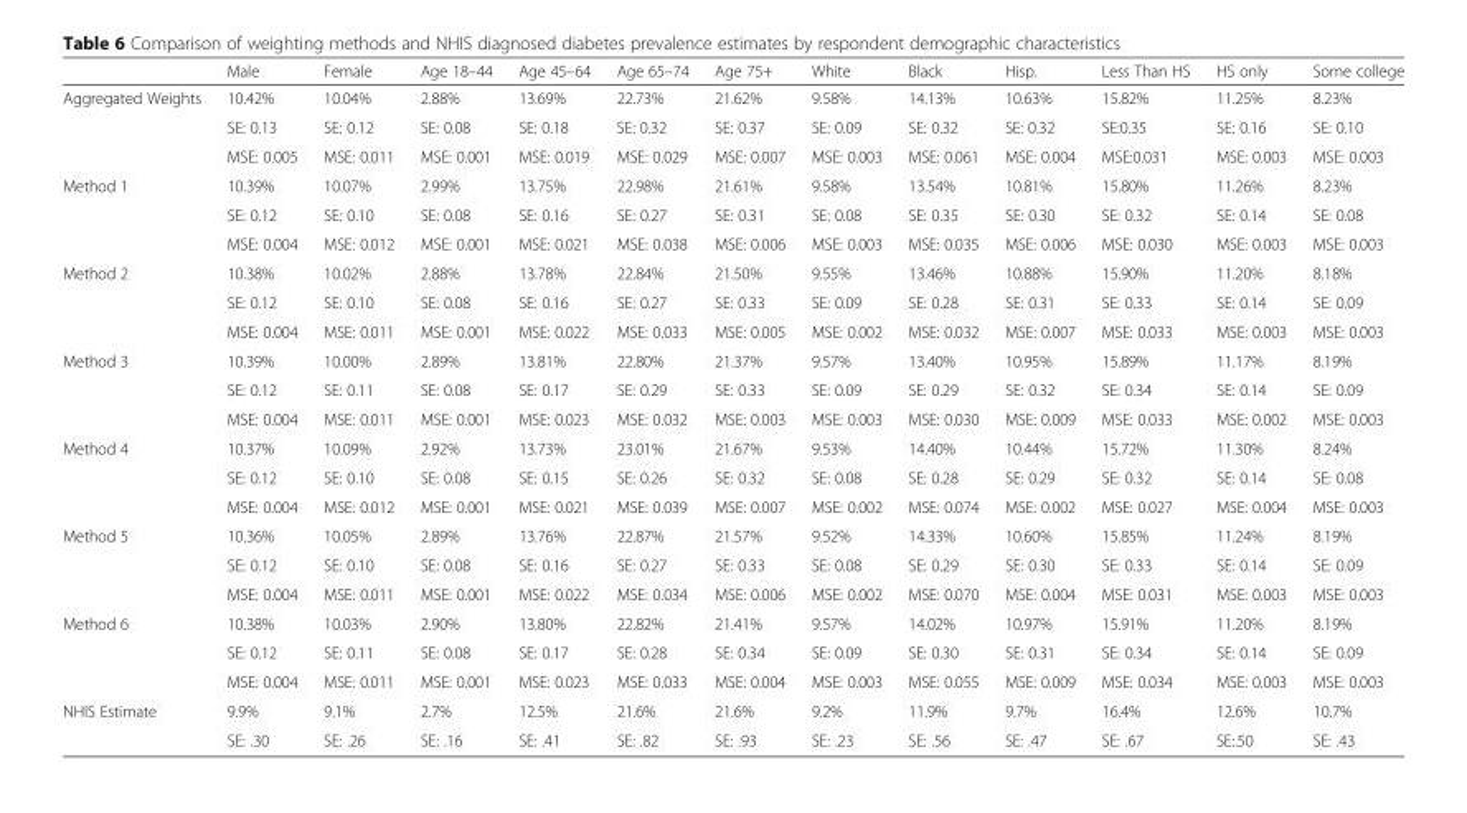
<table><thead><tr><td></td><td>Male</td><td>Female</td><td>Age 18–44</td><td>Age 45–64</td><td>Age 65–74</td><td>Age 75+</td><td>White</td><td>Black</td><td>Hisp.</td><td>Less Than HS</td><td>HS only</td><td>Some college</td></tr></thead><tbody><tr><td rowspan="3">Aggregated Weights</td><td>10.42%</td><td>10.04%</td><td>2.88%</td><td>13.69%</td><td>22.73%</td><td>21.62%</td><td>9.58%</td><td>14.13%</td><td>10.63%</td><td>15.82%</td><td>11.25%</td><td>8.23%</td></tr><tr><td>SE: 0.13</td><td>SE: 0.12</td><td>SE: 0.08</td><td>SE: 0.18</td><td>SE: 0.32</td><td>SE: 0.37</td><td>SE: 0.09</td><td>SE: 0.32</td><td>SE: 0.32</td><td>SE:0.35</td><td>SE: 0.16</td><td>SE: 0.10</td></tr><tr><td>MSE: 0.005</td><td>MSE: 0.011</td><td>MSE: 0.001</td><td>MSE: 0.019</td><td>MSE: 0.029</td><td>MSE: 0.007</td><td>MSE: 0.003</td><td>MSE: 0.061</td><td>MSE: 0.004</td><td>MSE:0.031</td><td>MSE: 0.003</td><td>MSE: 0.003</td></tr><tr><td rowspan="3">Method 1</td><td>10.39%</td><td>10.07%</td><td>2.99%</td><td>13.75%</td><td>22.98%</td><td>21.61%</td><td>9.58%</td><td>13.54%</td><td>10.81%</td><td>15.80%</td><td>11.26%</td><td>8.23%</td></tr><tr><td>SE: 0.12</td><td>SE: 0.10</td><td>SE: 0.08</td><td>SE: 0.16</td><td>SE: 0.27</td><td>SE: 0.31</td><td>SE: 0.08</td><td>SE: 0.35</td><td>SE: 0.30</td><td>SE: 0.32</td><td>SE: 0.14</td><td>SE: 0.08</td></tr><tr><td>MSE: 0.004</td><td>MSE: 0.012</td><td>MSE: 0.001</td><td>MSE: 0.021</td><td>MSE: 0.038</td><td>MSE: 0.006</td><td>MSE: 0.003</td><td>MSE: 0.035</td><td>MSE: 0.006</td><td>MSE: 0.030</td><td>MSE: 0.003</td><td>MSE: 0.003</td></tr><tr><td rowspan="3">Method 2</td><td>10.38%</td><td>10.02%</td><td>2.88%</td><td>13.78%</td><td>22.84%</td><td>21.50%</td><td>9.55%</td><td>13.46%</td><td>10.88%</td><td>15.90%</td><td>11.20%</td><td>8.18%</td></tr><tr><td>SE: 0.12</td><td>SE: 0.10</td><td>SE: 0.08</td><td>SE: 0.16</td><td>SE: 0.27</td><td>SE: 0.33</td><td>SE: 0.09</td><td>SE: 0.28</td><td>SE: 0.31</td><td>SE: 0.33</td><td>SE: 0.14</td><td>SE: 0.09</td></tr><tr><td>MSE: 0.004</td><td>MSE: 0.011</td><td>MSE: 0.001</td><td>MSE: 0.022</td><td>MSE: 0.033</td><td>MSE: 0.005</td><td>MSE: 0.002</td><td>MSE: 0.032</td><td>MSE: 0.007</td><td>MSE: 0.033</td><td>MSE: 0.003</td><td>MSE: 0.003</td></tr><tr><td rowspan="3">Method 3</td><td>10.39%</td><td>10.00%</td><td>2.89%</td><td>13.81%</td><td>22.80%</td><td>21.37%</td><td>9.57%</td><td>13.40%</td><td>10.95%</td><td>15.89%</td><td>11.17%</td><td>8.19%</td></tr><tr><td>SE: 0.12</td><td>SE: 0.11</td><td>SE: 0.08</td><td>SE: 0.17</td><td>SE: 0.29</td><td>SE: 0.33</td><td>SE: 0.09</td><td>SE: 0.29</td><td>SE: 0.32</td><td>SE: 0.34</td><td>SE: 0.14</td><td>SE: 0.09</td></tr><tr><td>MSE: 0.004</td><td>MSE: 0.011</td><td>MSE: 0.001</td><td>MSE: 0.023</td><td>MSE: 0.032</td><td>MSE: 0.003</td><td>MSE: 0.003</td><td>MSE: 0.030</td><td>MSE: 0.009</td><td>MSE: 0.033</td><td>MSE: 0.002</td><td>MSE: 0.003</td></tr><tr><td rowspan="3">Method 4</td><td>10.37%</td><td>10.09%</td><td>2.92%</td><td>13.73%</td><td>23.01%</td><td>21.67%</td><td>9.53%</td><td>14.40%</td><td>10.44%</td><td>15.72%</td><td>11.30%</td><td>8.24%</td></tr><tr><td>SE: 0.12</td><td>SE: 0.10</td><td>SE: 0.08</td><td>SE: 0.15</td><td>SE: 0.26</td><td>SE: 0.32</td><td>SE: 0.08</td><td>SE: 0.28</td><td>SE: 0.29</td><td>SE: 0.32</td><td>SE: 0.14</td><td>SE: 0.08</td></tr><tr><td>MSE: 0.004</td><td>MSE: 0.012</td><td>MSE: 0.001</td><td>MSE: 0.021</td><td>MSE: 0.039</td><td>MSE: 0.007</td><td>MSE: 0.002</td><td>MSE: 0.074</td><td>MSE: 0.002</td><td>MSE: 0.027</td><td>MSE: 0.004</td><td>MSE: 0.003</td></tr><tr><td rowspan="3">Method 5</td><td>10.36%</td><td>10.05%</td><td>2.89%</td><td>13.76%</td><td>22.87%</td><td>21.57%</td><td>9.52%</td><td>14.33%</td><td>10.60%</td><td>15.85%</td><td>11.24%</td><td>8.19%</td></tr><tr><td>SE: 0.12</td><td>SE: 0.10</td><td>SE: 0.08</td><td>SE: 0.16</td><td>SE: 0.27</td><td>SE: 0.33</td><td>SE: 0.08</td><td>SE: 0.29</td><td>SE: 0.30</td><td>SE: 0.33</td><td>SE: 0.14</td><td>SE: 0.09</td></tr><tr><td>MSE: 0.004</td><td>MSE: 0.011</td><td>MSE: 0.001</td><td>MSE: 0.022</td><td>MSE: 0.034</td><td>MSE: 0.006</td><td>MSE: 0.002</td><td>MSE: 0.070</td><td>MSE: 0.004</td><td>MSE: 0.031</td><td>MSE: 0.003</td><td>MSE: 0.003</td></tr><tr><td rowspan="3">Method 6</td><td>10.38%</td><td>10.03%</td><td>2.90%</td><td>13.80%</td><td>22.82%</td><td>21.41%</td><td>9.57%</td><td>14.02%</td><td>10.97%</td><td>15.91%</td><td>11.20%</td><td>8.19%</td></tr><tr><td>SE: 0.12</td><td>SE: 0.11</td><td>SE: 0.08</td><td>SE: 0.17</td><td>SE: 0.28</td><td>SE: 0.34</td><td>SE: 0.09</td><td>SE: 0.30</td><td>SE: 0.31</td><td>SE: 0.34</td><td>SE: 0.14</td><td>SE: 0.09</td></tr><tr><td>MSE: 0.004</td><td>MSE: 0.011</td><td>MSE: 0.001</td><td>MSE: 0.023</td><td>MSE: 0.033</td><td>MSE: 0.004</td><td>MSE: 0.003</td><td>MSE: 0.055</td><td>MSE: 0.009</td><td>MSE: 0.034</td><td>MSE: 0.003</td><td>MSE: 0.003</td></tr><tr><td rowspan="2">NHIS Estimate</td><td>9.9%</td><td>9.1%</td><td>2.7%</td><td>12.5%</td><td>21.6%</td><td>21.6%</td><td>9.2%</td><td>11.9%</td><td>9.7%</td><td>16.4%</td><td>12.6%</td><td>10.7%</td></tr><tr><td>SE: .30</td><td>SE: .26</td><td>SE: .16</td><td>SE: .41</td><td>SE: .82</td><td>SE: .93</td><td>SE: .23</td><td>SE: .56</td><td>SE: .47</td><td>SE: .67</td><td>SE:.50</td><td>SE: .43</td></tr></tbody></table>